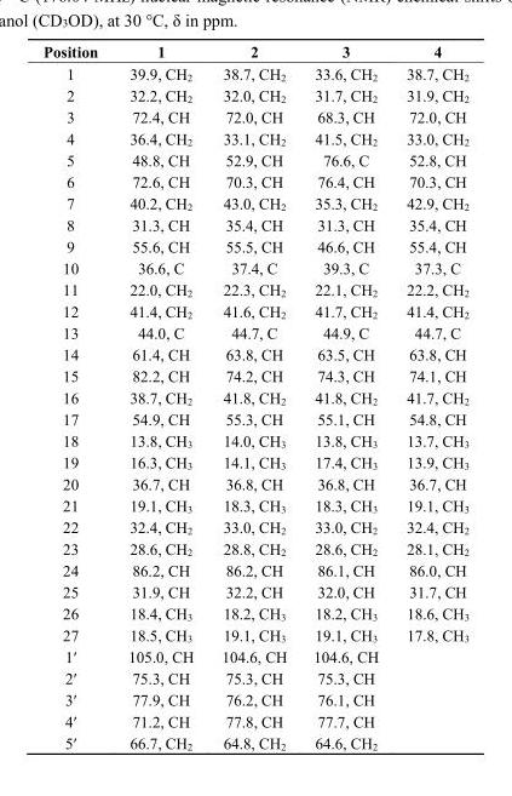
<table><thead><tr><td>Position</td><td>1</td><td>2</td><td>3</td><td>4</td></tr></thead><tbody><tr><td>1</td><td>39.9, CH<sub>2</sub></td><td>38.7, CH<sub>2</sub></td><td>33.6, CH<sub>2</sub></td><td>38.7, CH<sub>2</sub></td></tr><tr><td>2</td><td>32.2, CH<sub>2</sub></td><td>32.0, CH<sub>2</sub></td><td>31.7, CH<sub>2</sub></td><td>31.9, CH<sub>2</sub></td></tr><tr><td>3</td><td>72.4, CH</td><td>72.0, CH</td><td>68.3, CH</td><td>72.0, CH</td></tr><tr><td>4</td><td>36.4, CH<sub>2</sub></td><td>33.1, CH<sub>2</sub></td><td>41.5, CH<sub>2</sub></td><td>33.0, CH<sub>2</sub></td></tr><tr><td>5</td><td>48.8, CH</td><td>52.9, CH</td><td>76.6, C</td><td>52.8, CH</td></tr><tr><td>6</td><td>72.6, CH</td><td>70.3, CH</td><td>76.4, CH</td><td>70.3, CH</td></tr><tr><td>7</td><td>40.2, CH<sub>2</sub></td><td>43.0, CH<sub>2</sub></td><td>35.3, CH<sub>2</sub></td><td>42.9, CH<sub>2</sub></td></tr><tr><td>8</td><td>31.3, CH</td><td>35.4, CH</td><td>31.3, CH</td><td>35.4, CH</td></tr><tr><td>9</td><td>55.6, CH</td><td>55.5, CH</td><td>46.6, CH</td><td>55.4, CH</td></tr><tr><td>10</td><td>36.6, C</td><td>37.4, C</td><td>39.3, C</td><td>37.3, C</td></tr><tr><td>11</td><td>22.0, CH<sub>2</sub></td><td>22.3, CH<sub>2</sub></td><td>22.1, CH<sub>2</sub></td><td>22.2, CH<sub>2</sub></td></tr><tr><td>12</td><td>41.4, CH<sub>2</sub></td><td>41.6, CH<sub>2</sub></td><td>41.7, CH<sub>2</sub></td><td>41.4, CH<sub>2</sub></td></tr><tr><td>13</td><td>44.0, C</td><td>44.7, C</td><td>44.9, C</td><td>44.7, C</td></tr><tr><td>14</td><td>61.4, CH</td><td>63.8, CH</td><td>63.5, CH</td><td>63.8, CH</td></tr><tr><td>15</td><td>82.2, CH</td><td>74.2, CH</td><td>74.3, CH</td><td>74.1, CH</td></tr><tr><td>16</td><td>38.7, CH<sub>2</sub></td><td>41.8, CH<sub>2</sub></td><td>41.8, CH<sub>2</sub></td><td>41.7, CH<sub>2</sub></td></tr><tr><td>17</td><td>54.9, CH</td><td>55.3, CH</td><td>55.1, CH</td><td>54.8, CH</td></tr><tr><td>18</td><td>13.8, CH<sub>3</sub></td><td>14.0, CH<sub>3</sub></td><td>13.8, CH<sub>3</sub></td><td>13.7, CH<sub>3</sub></td></tr><tr><td>19</td><td>16.3, CH<sub>3</sub></td><td>14.1, CH<sub>3</sub></td><td>17.4, CH<sub>3</sub></td><td>13.9, CH<sub>3</sub></td></tr><tr><td>20</td><td>36.7, CH</td><td>36.8, CH</td><td>36.8, CH</td><td>36.7, CH</td></tr><tr><td>21</td><td>19.1, CH<sub>3</sub></td><td>18.3, CH<sub>3</sub></td><td>18.3, CH<sub>3</sub></td><td>19.1, CH<sub>3</sub></td></tr><tr><td>22</td><td>32.4, CH<sub>2</sub></td><td>33.0, CH<sub>2</sub></td><td>33.0, CH<sub>2</sub></td><td>32.4, CH<sub>2</sub></td></tr><tr><td>23</td><td>28.6, CH<sub>2</sub></td><td>28.8, CH<sub>2</sub></td><td>28.6, CH<sub>2</sub></td><td>28.1, CH<sub>2</sub></td></tr><tr><td>24</td><td>86.2, CH</td><td>86.2, CH</td><td>86.1, CH</td><td>86.0, CH</td></tr><tr><td>25</td><td>31.9, CH</td><td>32.2, CH</td><td>32.0, CH</td><td>31.7, CH</td></tr><tr><td>26</td><td>18.4, CH<sub>3</sub></td><td>18.2, CH<sub>3</sub></td><td>18.2, CH<sub>3</sub></td><td>18.6, CH<sub>3</sub></td></tr><tr><td>27</td><td>18.5, CH<sub>3</sub></td><td>19.1, CH<sub>3</sub></td><td>19.1, CH<sub>3</sub></td><td>17.8, CH<sub>3</sub></td></tr><tr><td>1′</td><td>105.0, CH</td><td>104.6, CH</td><td>104.6, CH</td><td></td></tr><tr><td>2′</td><td>75.3, CH</td><td>75.3, CH</td><td>75.3, CH</td><td></td></tr><tr><td>3′</td><td>77.9, CH</td><td>76.2, CH</td><td>76.1, CH</td><td></td></tr><tr><td>4′</td><td>71.2, CH</td><td>77.8, CH</td><td>77.7, CH</td><td></td></tr><tr><td>5′</td><td>66.7, CH<sub>2</sub></td><td>64.8, CH<sub>2</sub></td><td>64.6, CH<sub>2</sub></td><td></td></tr></tbody></table>